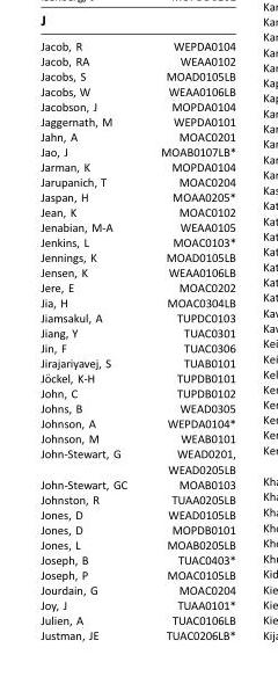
<table><tbody><tr><td>Jacob, R</td><td>WEPDA0104</td></tr><tr><td>Jacob, RA</td><td>WEAA0102</td></tr><tr><td>Jacobs, S</td><td>MOAD0105LB</td></tr><tr><td>Jacobs, W</td><td>WEAA0106LB</td></tr><tr><td>Jacobson, J</td><td>MOPDA0104</td></tr><tr><td>Jaggernath, M</td><td>WEPDA0101</td></tr><tr><td>Jahn, A</td><td>MOAC0201</td></tr><tr><td>Jao, J</td><td>MOAB0107LB*</td></tr><tr><td>Jarman, K</td><td>MOPDA0104</td></tr><tr><td>Jarupanich, T</td><td>MOAC0204</td></tr><tr><td>Jaspan, H</td><td>MOAA0205*</td></tr><tr><td>Jean, K</td><td>MOAC0102</td></tr><tr><td>Jenabian, M-A</td><td>WEAA0105</td></tr><tr><td>Jenkins, L</td><td>MOAC0103*</td></tr><tr><td>Jennings, K</td><td>MOAD0105LB</td></tr><tr><td>Jensen, K</td><td>WEAA0106LB</td></tr><tr><td>Jere, E</td><td>MOAC0202</td></tr><tr><td>Jia, H</td><td>MOAC0304LB</td></tr><tr><td>Jiamsakul, A</td><td>TUPDC0103</td></tr><tr><td>Jiang, Y</td><td>TUAC0301</td></tr><tr><td>Jin, F</td><td>TUAC0306</td></tr><tr><td>Jirajariyavej, S</td><td>TUAB0101</td></tr><tr><td>Jo¨ckel, K-H</td><td>TUPDB0101</td></tr><tr><td>John, C</td><td>TUPDB0102</td></tr><tr><td>Johns, B</td><td>WEAD0305</td></tr><tr><td>Johnson, A</td><td>WEPDA0104*</td></tr><tr><td>Johnson, M</td><td>WEAB0101</td></tr><tr><td>John-Stewart, G</td><td>WEAD0201, WEAD0205LB</td></tr><tr><td>John-Stewart, GC</td><td>MOAB0103</td></tr><tr><td>Johnston, R</td><td>TUAA0205LB</td></tr><tr><td>Jones, D</td><td>WEAD0105LB</td></tr><tr><td>Jones, D</td><td>MOPDB0101</td></tr><tr><td>Jones, L</td><td>MOAB0205LB</td></tr><tr><td>Joseph, B</td><td>TUAC0403*</td></tr><tr><td>Joseph, P</td><td>MOAC0105LB</td></tr><tr><td>Jourdain, G</td><td>MOAC0204</td></tr><tr><td>Joy, J</td><td>TUAA0101*</td></tr><tr><td>Julien, A</td><td>TUAC0106LB</td></tr><tr><td>Justman, JE</td><td>TUAC0206LB*</td></tr></tbody></table>